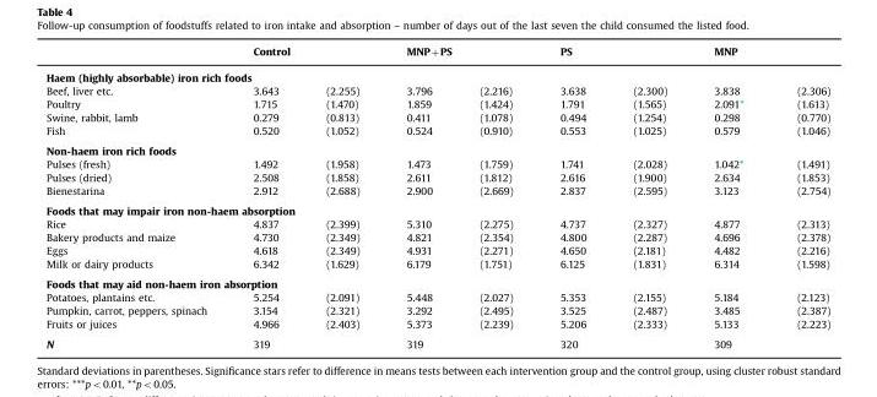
<table><thead><tr><td></td><td colspan="2">Control</td><td colspan="2">MNP+PS</td><td colspan="2">PS</td><td colspan="2">MNP</td></tr><tr><td colspan="9">Haem (highly absorbable) iron rich foods</td></tr><tr><td>Beef, liver etc.</td><td>3.643</td><td>(2.255)</td><td>3.796</td><td>(2.216)</td><td>3.638</td><td>(2.300)</td><td>3.838</td><td>(2.306)</td></tr></thead><tbody><tr><td>Poultry</td><td>1.715</td><td>(1.470)</td><td>1.859</td><td>(1.424)</td><td>1.791</td><td>(1.565)</td><td>2.091*</td><td>(1.613)</td></tr><tr><td>Swine, rabbit, lamb</td><td>0.279</td><td>(0.813)</td><td>0.411</td><td>(1.078)</td><td>0.494</td><td>(1.254)</td><td>0.298</td><td>(0.770)</td></tr><tr><td>Fish</td><td>0.520</td><td>(1.052)</td><td>0.524</td><td>(0.910)</td><td>0.553</td><td>(1.025)</td><td>0.579</td><td>(1.046)</td></tr><tr><td colspan="9">Non-haem iron rich foods</td></tr><tr><td>Pulses (fresh)</td><td>1.492</td><td>(1.958)</td><td>1.473</td><td>(1.759)</td><td>1.741</td><td>(2.028)</td><td>1.042*</td><td>(1.491)</td></tr><tr><td>Pulses (dried)</td><td>2.508</td><td>(1.858)</td><td>2.611</td><td>(1.812)</td><td>2.616</td><td>(1.900)</td><td>2.634</td><td>(1.853)</td></tr><tr><td>Bienestarina</td><td>2.912</td><td>(2.688)</td><td>2.900</td><td>(2.669)</td><td>2.837</td><td>(2.595)</td><td>3.123</td><td>(2.754)</td></tr><tr><td colspan="9">Foods that may impair iron non-haem absorption</td></tr><tr><td>Rice</td><td>4.837</td><td>(2.399)</td><td>5.310</td><td>(2.275)</td><td>4.737</td><td>(2.327)</td><td>4.877</td><td>(2.313)</td></tr><tr><td>Bakery products and maize</td><td>4.730</td><td>(2.349)</td><td>4.821</td><td>(2.354)</td><td>4.800</td><td>(2.287)</td><td>4.696</td><td>(2.378)</td></tr><tr><td>Eggs</td><td>4.618</td><td>(2.349)</td><td>4.931</td><td>(2.271)</td><td>4.650</td><td>(2.181)</td><td>4.482</td><td>(2.216)</td></tr><tr><td>Milk or dairy products</td><td>6.342</td><td>(1.629)</td><td>6.179</td><td>(1.751)</td><td>6.125</td><td>(1.831)</td><td>6.314</td><td>(1.598)</td></tr><tr><td colspan="9">Foods that may aid non-haem iron absorption</td></tr><tr><td>Potatoes, plantains etc.</td><td>5.254</td><td>(2.091)</td><td>5.448</td><td>(2.027)</td><td>5.353</td><td>(2.155)</td><td>5.184</td><td>(2.123)</td></tr><tr><td>Pumpkin, carrot, peppers, spinach</td><td>3.154</td><td>(2.321)</td><td>3.292</td><td>(2.495)</td><td>3.525</td><td>(2.487)</td><td>3.485</td><td>(2.387)</td></tr><tr><td>Fruits or juices</td><td>4.966</td><td>(2.403)</td><td>5.373</td><td>(2.239)</td><td>5.206</td><td>(2.333)</td><td>5.133</td><td>(2.223)</td></tr><tr><td>N</td><td colspan="2">319</td><td colspan="2">319</td><td colspan="2">320</td><td colspan="2">309</td></tr></tbody></table>